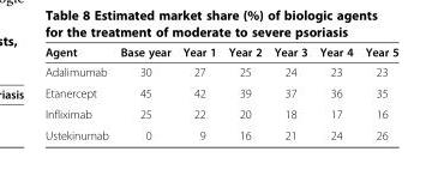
<table><thead><tr><td>Agent</td><td>Base year</td><td>Year 1</td><td>Year 2</td><td>Year 3</td><td>Year 4</td><td>Year 5</td></tr></thead><tbody><tr><td>Adalimumab</td><td>30</td><td>27</td><td>25</td><td>24</td><td>23</td><td>23</td></tr><tr><td>Etanercept</td><td>45</td><td>42</td><td>39</td><td>37</td><td>36</td><td>35</td></tr><tr><td>Infliximab</td><td>25</td><td>22</td><td>20</td><td>18</td><td>17</td><td>16</td></tr><tr><td>Ustekinumab</td><td>0</td><td>9</td><td>16</td><td>21</td><td>24</td><td>26</td></tr></tbody></table>